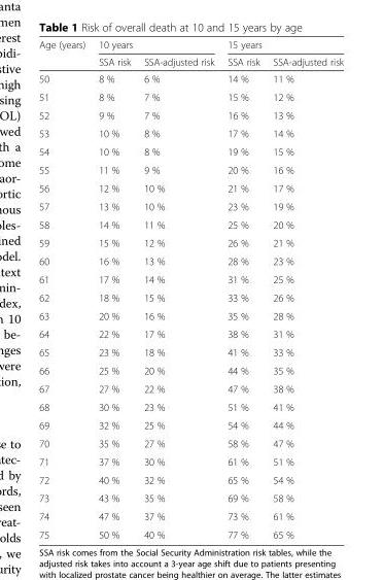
<table><thead><tr><td rowspan="2">Age (years)</td><td colspan="2">10 years</td><td colspan="2">15 years</td></tr><tr><td>SSA risk</td><td>SSA-adjusted risk</td><td>SSA risk</td><td>SSA-adjusted risk</td></tr></thead><tbody><tr><td>50</td><td>8 %</td><td>6 %</td><td>14 %</td><td>11 %</td></tr><tr><td>51</td><td>8 %</td><td>7 %</td><td>15 %</td><td>12 %</td></tr><tr><td>52</td><td>9 %</td><td>7 %</td><td>16 %</td><td>13 %</td></tr><tr><td>53</td><td>10 %</td><td>8 %</td><td>17 %</td><td>14 %</td></tr><tr><td>54</td><td>10 %</td><td>8 %</td><td>19 %</td><td>15 %</td></tr><tr><td>55</td><td>11 %</td><td>9 %</td><td>20 %</td><td>16 %</td></tr><tr><td>56</td><td>12 %</td><td>10 %</td><td>21 %</td><td>17 %</td></tr><tr><td>57</td><td>13 %</td><td>10 %</td><td>23 %</td><td>19 %</td></tr><tr><td>58</td><td>14 %</td><td>11 %</td><td>25 %</td><td>20 %</td></tr><tr><td>59</td><td>15 %</td><td>12 %</td><td>26 %</td><td>21 %</td></tr><tr><td>60</td><td>16 %</td><td>13 %</td><td>28 %</td><td>23 %</td></tr><tr><td>61</td><td>17 %</td><td>14 %</td><td>31 %</td><td>25 %</td></tr><tr><td>62</td><td>18 %</td><td>15 %</td><td>33 %</td><td>26 %</td></tr><tr><td>63</td><td>20 %</td><td>16 %</td><td>35 %</td><td>28 %</td></tr><tr><td>64</td><td>22 %</td><td>17 %</td><td>38 %</td><td>31 %</td></tr><tr><td>65</td><td>23 %</td><td>18 %</td><td>41 %</td><td>33 %</td></tr><tr><td>66</td><td>25 %</td><td>20 %</td><td>44 %</td><td>35 %</td></tr><tr><td>67</td><td>27 %</td><td>22 %</td><td>47 %</td><td>38 %</td></tr><tr><td>68</td><td>30 %</td><td>23 %</td><td>51 %</td><td>41 %</td></tr><tr><td>69</td><td>32 %</td><td>25 %</td><td>54 %</td><td>44 %</td></tr><tr><td>70</td><td>35 %</td><td>27 %</td><td>58 %</td><td>47 %</td></tr><tr><td>71</td><td>37 %</td><td>30 %</td><td>61 %</td><td>51 %</td></tr><tr><td>72</td><td>40 %</td><td>32 %</td><td>65 %</td><td>54 %</td></tr><tr><td>73</td><td>43 %</td><td>35 %</td><td>69 %</td><td>58 %</td></tr><tr><td>74</td><td>47 %</td><td>37 %</td><td>73 %</td><td>61 %</td></tr><tr><td>75</td><td>50 %</td><td>40 %</td><td>77 %</td><td>65 %</td></tr></tbody></table>